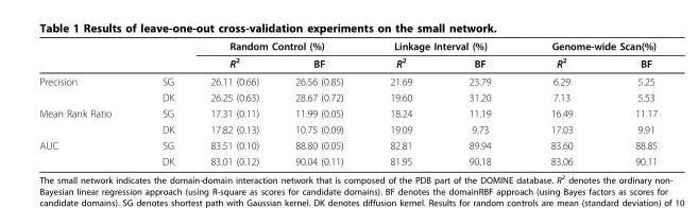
<table><thead><tr><td rowspan="2"></td><td rowspan="2"></td><td colspan="2">Random Control (%)</td><td colspan="2">Linkage Interval (%)</td><td colspan="2">Genome-wide Scan(%)</td></tr><tr><td>R<sup>2</sup></td><td>BF</td><td>R<sup>2</sup></td><td>BF</td><td>R<sup>2</sup></td><td>BF</td></tr></thead><tbody><tr><td rowspan="2">Precision</td><td>SG</td><td>26.11 (0.66)</td><td>26.56 (0.85)</td><td>21.69</td><td>23.79</td><td>6.29</td><td>5.25</td></tr><tr><td>DK</td><td>26.25 (0.63)</td><td>28.67 (0.72)</td><td>19.60</td><td>31.20</td><td>7.13</td><td>5.53</td></tr><tr><td rowspan="2">Mean Rank Ratio</td><td>SG</td><td>17.31 (0.11)</td><td>11.99 (0.05)</td><td>18.24</td><td>11.19</td><td>16.49</td><td>11.17</td></tr><tr><td>DK</td><td>17.82 (0.13)</td><td>10.75 (0.09)</td><td>19.09</td><td>9.73</td><td>17.03</td><td>9.91</td></tr><tr><td rowspan="2">AUC</td><td>SG</td><td>83.51 (0.10)</td><td>88.80 (0.05)</td><td>82.81</td><td>89.94</td><td>83.60</td><td>88.85</td></tr><tr><td>DK</td><td>83.01 (0.12)</td><td>90.04 (0.11)</td><td>81.95</td><td>90.18</td><td>83.06</td><td>90.11</td></tr></tbody></table>